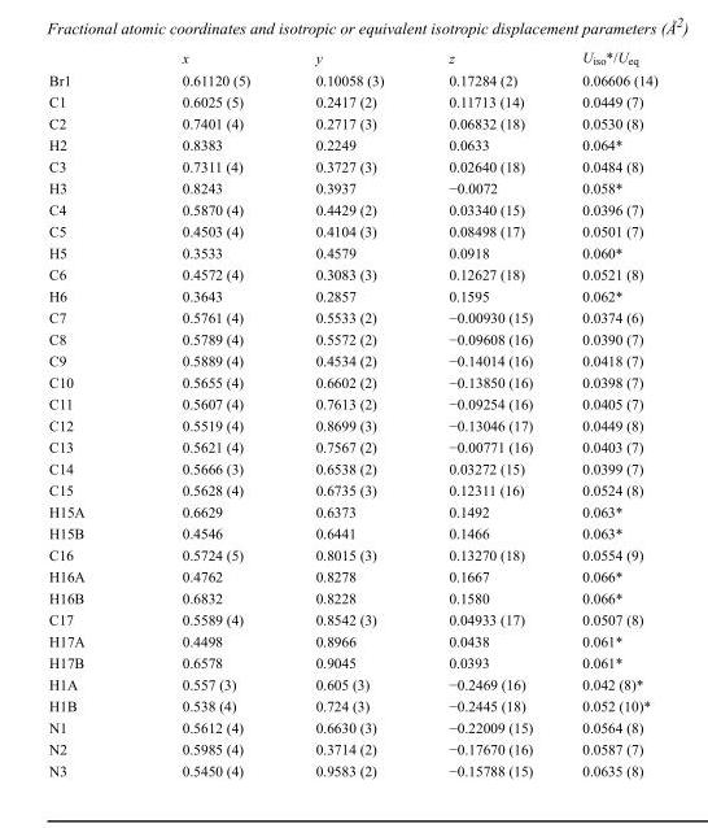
<table><thead><tr><td></td><td>x</td><td>y</td><td>z</td><td>U<sub>iso</sub>*/U<sub>eq</sub></td></tr></thead><tbody><tr><td>Br1</td><td>0.61120 (5)</td><td>0.10058 (3)</td><td>0.17284 (2)</td><td>0.06606 (14)</td></tr><tr><td>C1</td><td>0.6025 (5)</td><td>0.2417 (2)</td><td>0.11713 (14)</td><td>0.0449 (7)</td></tr><tr><td>C2</td><td>0.7401 (4)</td><td>0.2717 (3)</td><td>0.06832 (18)</td><td>0.0530 (8)</td></tr><tr><td>H2</td><td>0.8383</td><td>0.2249</td><td>0.0633</td><td>0.064*</td></tr><tr><td>C3</td><td>0.7311 (4)</td><td>0.3727 (3)</td><td>0.02640 (18)</td><td>0.0484 (8)</td></tr><tr><td>H3</td><td>0.8243</td><td>0.3937</td><td>−0.0072</td><td>0.058*</td></tr><tr><td>C4</td><td>0.5870 (4)</td><td>0.4429 (2)</td><td>0.03340 (15)</td><td>0.0396 (7)</td></tr><tr><td>C5</td><td>0.4503 (4)</td><td>0.4104 (3)</td><td>0.08498 (17)</td><td>0.0501 (7)</td></tr><tr><td>H5</td><td>0.3533</td><td>0.4579</td><td>0.0918</td><td>0.060*</td></tr><tr><td>C6</td><td>0.4572 (4)</td><td>0.3083 (3)</td><td>0.12627 (18)</td><td>0.0521 (8)</td></tr><tr><td>H6</td><td>0.3643</td><td>0.2857</td><td>0.1595</td><td>0.062*</td></tr><tr><td>C7</td><td>0.5761 (4)</td><td>0.5533 (2)</td><td>−0.00930 (15)</td><td>0.0374 (6)</td></tr><tr><td>C8</td><td>0.5789 (4)</td><td>0.5572 (2)</td><td>−0.09608 (16)</td><td>0.0390 (7)</td></tr><tr><td>C9</td><td>0.5889 (4)</td><td>0.4534 (2)</td><td>−0.14014 (16)</td><td>0.0418 (7)</td></tr><tr><td>C10</td><td>0.5655 (4)</td><td>0.6602 (2)</td><td>−0.13850 (16)</td><td>0.0398 (7)</td></tr><tr><td>C11</td><td>0.5607 (4)</td><td>0.7613 (2)</td><td>−0.09254 (16)</td><td>0.0405 (7)</td></tr><tr><td>C12</td><td>0.5519 (4)</td><td>0.8699 (3)</td><td>−0.13046 (17)</td><td>0.0449 (8)</td></tr><tr><td>C13</td><td>0.5621 (4)</td><td>0.7567 (2)</td><td>−0.00771 (16)</td><td>0.0403 (7)</td></tr><tr><td>C14</td><td>0.5666 (3)</td><td>0.6538 (2)</td><td>0.03272 (15)</td><td>0.0399 (7)</td></tr><tr><td>C15</td><td>0.5628 (4)</td><td>0.6735 (3)</td><td>0.12311 (16)</td><td>0.0524 (8)</td></tr><tr><td>H15A</td><td>0.6629</td><td>0.6373</td><td>0.1492</td><td>0.063*</td></tr><tr><td>H15B</td><td>0.4546</td><td>0.6441</td><td>0.1466</td><td>0.063*</td></tr><tr><td>C16</td><td>0.5724 (5)</td><td>0.8015 (3)</td><td>0.13270 (18)</td><td>0.0554 (9)</td></tr><tr><td>H16A</td><td>0.4762</td><td>0.8278</td><td>0.1667</td><td>0.066*</td></tr><tr><td>H16B</td><td>0.6832</td><td>0.8228</td><td>0.1580</td><td>0.066*</td></tr><tr><td>C17</td><td>0.5589 (4)</td><td>0.8542 (3)</td><td>0.04933 (17)</td><td>0.0507 (8)</td></tr><tr><td>H17A</td><td>0.4498</td><td>0.8966</td><td>0.0438</td><td>0.061*</td></tr><tr><td>H17B</td><td>0.6578</td><td>0.9045</td><td>0.0393</td><td>0.061*</td></tr><tr><td>H1A</td><td>0.557 (3)</td><td>0.605 (3)</td><td>−0.2469 (16)</td><td>0.042 (8)*</td></tr><tr><td>H1B</td><td>0.538 (4)</td><td>0.724 (3)</td><td>−0.2445 (18)</td><td>0.052 (10)*</td></tr><tr><td>N1</td><td>0.5612 (4)</td><td>0.6630 (3)</td><td>−0.22009 (15)</td><td>0.0564 (8)</td></tr><tr><td>N2</td><td>0.5985 (4)</td><td>0.3714 (2)</td><td>−0.17670 (16)</td><td>0.0587 (7)</td></tr><tr><td>N3</td><td>0.5450 (4)</td><td>0.9583 (2)</td><td>−0.15788 (15)</td><td>0.0635 (8)</td></tr></tbody></table>